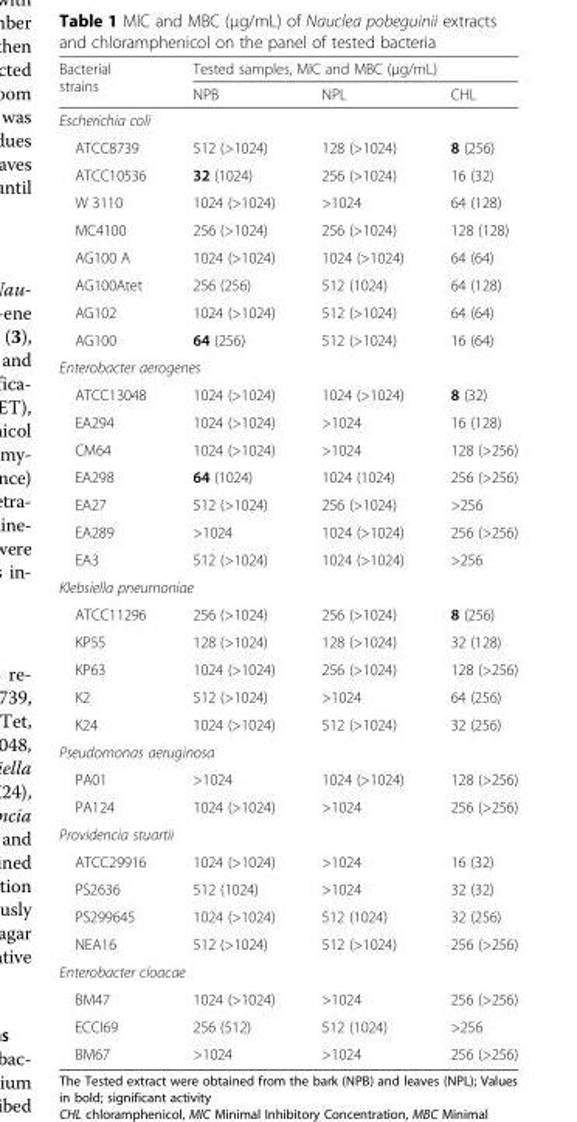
<table><thead><tr><td rowspan="2">Bacterial strains</td><td colspan="3">Tested samples, MIC and MBC (μg/mL)</td></tr><tr><td>NPB</td><td>NPL</td><td>CHL</td></tr></thead><tbody><tr><td colspan="4">Escherichia coli</td></tr><tr><td>ATCC8739</td><td>512 (&gt;1024)</td><td>128 (&gt;1024)</td><td>8 (256)</td></tr><tr><td>ATCC10536</td><td>32 (1024)</td><td>256 (&gt;1024)</td><td>16 (32)</td></tr><tr><td>W 3110</td><td>1024 (&gt;1024)</td><td>&gt;1024</td><td>64 (128)</td></tr><tr><td>MC4100</td><td>256 (&gt;1024)</td><td>256 (&gt;1024)</td><td>128 (128)</td></tr><tr><td>AG100 A</td><td>1024 (&gt;1024)</td><td>1024 (&gt;1024)</td><td>64 (64)</td></tr><tr><td>AG100Atet</td><td>256 (256)</td><td>512 (1024)</td><td>64 (128)</td></tr><tr><td>AG102</td><td>1024 (&gt;1024)</td><td>512 (&gt;1024)</td><td>64 (64)</td></tr><tr><td>AG100</td><td>64 (256)</td><td>512 (&gt;1024)</td><td>16 (64)</td></tr><tr><td colspan="4">Enterobacter aerogenes</td></tr><tr><td>ATCC13048</td><td>1024 (&gt;1024)</td><td>1024 (&gt;1024)</td><td>8 (32)</td></tr><tr><td>EA294</td><td>1024 (&gt;1024)</td><td>&gt;1024</td><td>16 (128)</td></tr><tr><td>CM64</td><td>1024 (&gt;1024)</td><td>&gt;1024</td><td>128 (&gt;256)</td></tr><tr><td>EA298</td><td>64 (1024)</td><td>1024 (1024)</td><td>256 (&gt;256)</td></tr><tr><td>EA27</td><td>512 (&gt;1024)</td><td>256 (&gt;1024)</td><td>&gt;256</td></tr><tr><td>EA289</td><td>&gt;1024</td><td>1024 (&gt;1024)</td><td>256 (&gt;256)</td></tr><tr><td>EA3</td><td>512 (&gt;1024)</td><td>1024 (&gt;1024)</td><td>&gt;256</td></tr><tr><td colspan="4">Klebsiella pneumoniae</td></tr><tr><td>ATCC11296</td><td>256 (&gt;1024)</td><td>256 (&gt;1024)</td><td>8 (256)</td></tr><tr><td>KP55</td><td>128 (&gt;1024)</td><td>128 (&gt;1024)</td><td>32 (128)</td></tr><tr><td>KP63</td><td>1024 (&gt;1024)</td><td>256 (&gt;1024)</td><td>128 (&gt;256)</td></tr><tr><td>K2</td><td>512 (&gt;1024)</td><td>&gt;1024</td><td>64 (256)</td></tr><tr><td>K24</td><td>1024 (&gt;1024)</td><td>512 (&gt;1024)</td><td>32 (256)</td></tr><tr><td colspan="4">Pseudomonas aeruginosa</td></tr><tr><td>PA01</td><td>&gt;1024</td><td>1024 (&gt;1024)</td><td>128 (&gt;256)</td></tr><tr><td>PA124</td><td>1024 (&gt;1024)</td><td>&gt;1024</td><td>256 (&gt;256)</td></tr><tr><td colspan="4">Providencia stuartii</td></tr><tr><td>ATCC29916</td><td>1024 (&gt;1024)</td><td>&gt;1024</td><td>16 (32)</td></tr><tr><td>PS2636</td><td>512 (1024)</td><td>&gt;1024</td><td>32 (32)</td></tr><tr><td>PS299645</td><td>1024 (&gt;1024)</td><td>512 (1024)</td><td>32 (256)</td></tr><tr><td>NEA16</td><td>512 (&gt;1024)</td><td>512 (&gt;1024)</td><td>256 (&gt;256)</td></tr><tr><td colspan="4">Enterobacter cloacae</td></tr><tr><td>BM47</td><td>1024 (&gt;1024)</td><td>&gt;1024</td><td>256 (&gt;256)</td></tr><tr><td>ECCI69</td><td>256 (512)</td><td>512 (1024)</td><td>&gt;256</td></tr><tr><td>BM67</td><td>&gt;1024</td><td>&gt;1024</td><td>256 (&gt;256)</td></tr></tbody></table>